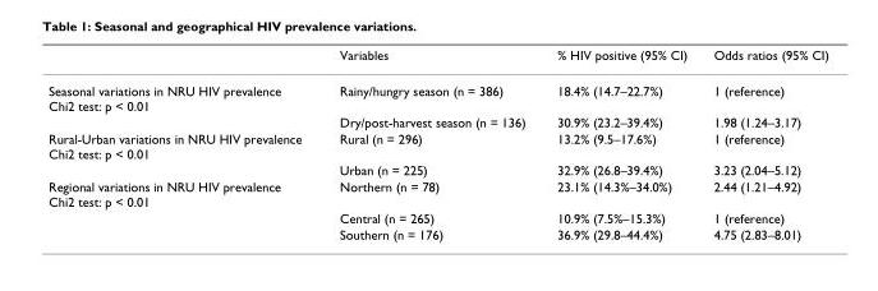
<table><thead><tr><td></td><td>Variables</td><td>% HIV positive (95% CI)</td><td>Odds ratios (95% CI)</td></tr></thead><tbody><tr><td rowspan="2">Seasonal variations in NRU HIV prevalence Chi2 test: p &lt; 0.01</td><td>Rainy/hungry season (n = 386)</td><td>18.4% (14.7–22.7%)</td><td>1 (reference)</td></tr><tr><td>Dry/post-harvest season (n = 136)</td><td>30.9% (23.2–39.4%)</td><td>1.98 (1.24–3.17)</td></tr><tr><td rowspan="2">Rural-Urban variations in NRU HIV prevalence Chi2 test: p &lt; 0.01</td><td>Rural (n = 296)</td><td>13.2% (9.5–17.6%)</td><td>1 (reference)</td></tr><tr><td>Urban (n = 225)</td><td>32.9% (26.8–39.4%)</td><td>3.23 (2.04–5.12)</td></tr><tr><td rowspan="3">Regional variations in NRU HIV prevalence Chi2 test: p &lt; 0.01</td><td>Northern (n = 78)</td><td>23.1% (14.3%–34.0%)</td><td>2.44 (1.21–4.92)</td></tr><tr><td>Central (n = 265)</td><td>10.9% (7.5%–15.3%)</td><td>1 (reference)</td></tr><tr><td>Southern (n = 176)</td><td>36.9% (29.8–44.4%)</td><td>4.75 (2.83–8.01)</td></tr></tbody></table>